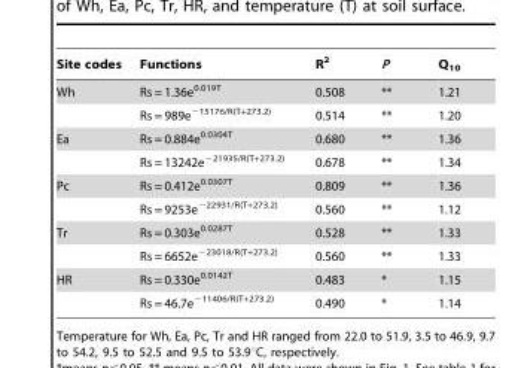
<table><thead><tr><td>Site codes</td><td>Functions</td><td>R<sup>2</sup></td><td>P</td><td>Q<sub>10</sub></td></tr></thead><tbody><tr><td rowspan="2">Wh</td><td>Rs = 1.36e<sup>0.019T</sup></td><td>0.508</td><td>**</td><td>1.21</td></tr><tr><td>Rs = 989e<sup>−15176/R(T+273.2)</sup></td><td>0.514</td><td>**</td><td>1.20</td></tr><tr><td rowspan="2">Ea</td><td>Rs = 0.884e<sup>0.0304T</sup></td><td>0.680</td><td>**</td><td>1.36</td></tr><tr><td>Rs = 13242e<sup>−21935/R(T+273.2)</sup></td><td>0.678</td><td>**</td><td>1.34</td></tr><tr><td rowspan="2">Pc</td><td>Rs = 0.412e<sup>0.0307T</sup></td><td>0.809</td><td>**</td><td>1.36</td></tr><tr><td>Rs = 9253e<sup>−22931/R(T+273.2)</sup></td><td>0.560</td><td>**</td><td>1.12</td></tr><tr><td rowspan="2">Tr</td><td>Rs = 0.303e<sup>0.0287T</sup></td><td>0.528</td><td>**</td><td>1.33</td></tr><tr><td>Rs = 6652e<sup>−23018/R(T+273.2)</sup></td><td>0.560</td><td>**</td><td>1.33</td></tr><tr><td rowspan="2">HR</td><td>Rs = 0.330e<sup>0.0142T</sup></td><td>0.483</td><td>*</td><td>1.15</td></tr><tr><td>Rs = 46.7e<sup>−11406/R(T+273.2)</sup></td><td>0.490</td><td>*</td><td>1.14</td></tr></tbody></table>